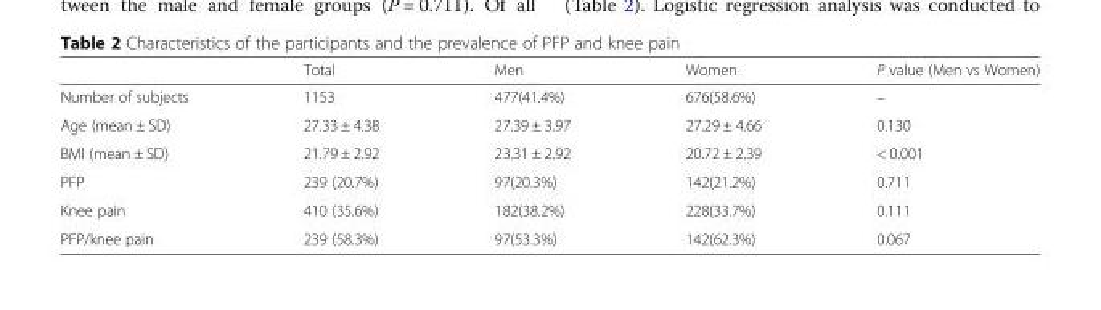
<table><thead><tr><td></td><td>Total</td><td>Men</td><td>Women</td><td>P value (Men vs Women)</td></tr></thead><tbody><tr><td>Number of subjects</td><td>1153</td><td>477(41.4%)</td><td>676(58.6%)</td><td>–</td></tr><tr><td>Age (mean ± SD)</td><td>27.33 ± 4.38</td><td>27.39 ± 3.97</td><td>27.29 ± 4.66</td><td>0.130</td></tr><tr><td>BMI (mean ± SD)</td><td>21.79 ± 2.92</td><td>23.31 ± 2.92</td><td>20.72 ± 2.39</td><td>&lt; 0.001</td></tr><tr><td>PFP</td><td>239 (20.7%)</td><td>97(20.3%)</td><td>142(21.2%)</td><td>0.711</td></tr><tr><td>Knee pain</td><td>410 (35.6%)</td><td>182(38.2%)</td><td>228(33.7%)</td><td>0.111</td></tr><tr><td>PFP/knee pain</td><td>239 (58.3%)</td><td>97(53.3%)</td><td>142(62.3%)</td><td>0.067</td></tr></tbody></table>